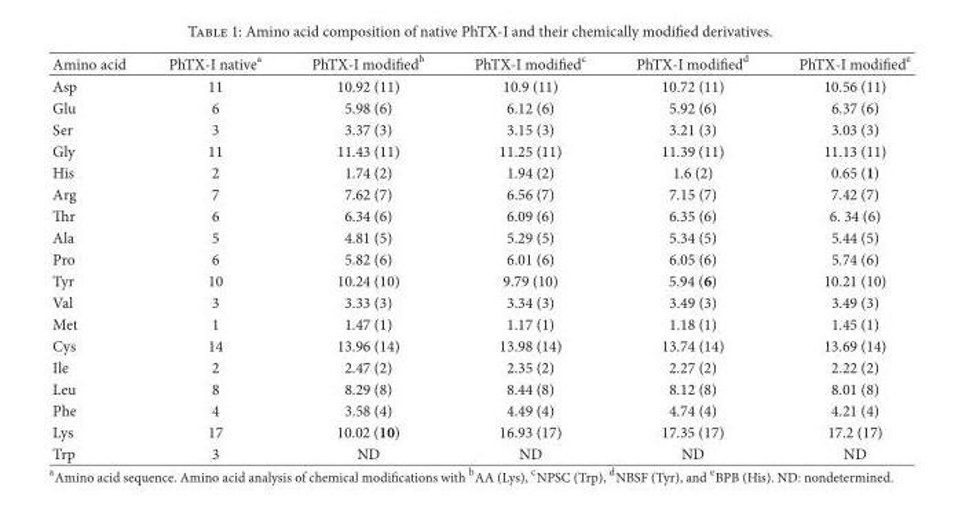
<table><thead><tr><td>Amino acid</td><td>PhTX-I native<sup>a</sup></td><td>PhTX-I modi�edb</td><td>PhTX-I modi�edc</td><td>PhTX-I modi�edd</td><td>PhTX-I modi�ede</td></tr></thead><tbody><tr><td>Asp</td><td>11</td><td>10.92 (11)</td><td>10.9 (11)</td><td>10.72 (11)</td><td>10.56 (11)</td></tr><tr><td>Glu</td><td>6</td><td>5.98 (6)</td><td>6.12 (6)</td><td>5.92 (6)</td><td>6.37 (6)</td></tr><tr><td>Ser</td><td>3</td><td>3.37 (3)</td><td>3.15 (3)</td><td>3.21 (3)</td><td>3.03 (3)</td></tr><tr><td>Gly</td><td>11</td><td>11.43 (11)</td><td>11.25 (11)</td><td>11.39 (11)</td><td>11.13 (11)</td></tr><tr><td>His</td><td>2</td><td>1.74 (2)</td><td>1.94 (2)</td><td>1.6 (2)</td><td>0.65 (1)</td></tr><tr><td>Arg</td><td>7</td><td>7.62 (7)</td><td>6.56 (7)</td><td>7.15 (7)</td><td>7.42 (7)</td></tr><tr><td>r</td><td>6</td><td>6.34 (6)</td><td>6.09 (6)</td><td>6.35 (6)</td><td>6. 34 (6)</td></tr><tr><td>Ala</td><td>5</td><td>4.81 (5)</td><td>5.29 (5)</td><td>5.34 (5)</td><td>5.44 (5)</td></tr><tr><td>Pro</td><td>6</td><td>5.82 (6)</td><td>6.01 (6)</td><td>6.05 (6)</td><td>5.74 (6)</td></tr><tr><td>Tyr</td><td>10</td><td>10.24 (10)</td><td>9.79 (10)</td><td>5.94 (6)</td><td>10.21 (10)</td></tr><tr><td>Val</td><td>3</td><td>3.33 (3)</td><td>3.34 (3)</td><td>3.49 (3)</td><td>3.49 (3)</td></tr><tr><td>Met</td><td>1</td><td>1.47 (1)</td><td>1.17 (1)</td><td>1.18 (1)</td><td>1.45 (1)</td></tr><tr><td>Cys</td><td>14</td><td>13.96 (14)</td><td>13.98 (14)</td><td>13.74 (14)</td><td>13.69 (14)</td></tr><tr><td>Ile</td><td>2</td><td>2.47 (2)</td><td>2.35 (2)</td><td>2.27 (2)</td><td>2.22 (2)</td></tr><tr><td>Leu</td><td>8</td><td>8.29 (8)</td><td>8.44 (8)</td><td>8.12 (8)</td><td>8.01 (8)</td></tr><tr><td>Phe</td><td>4</td><td>3.58 (4)</td><td>4.49 (4)</td><td>4.74 (4)</td><td>4.21 (4)</td></tr><tr><td>Lys</td><td>17</td><td>10.02 (10)</td><td>16.93 (17)</td><td>17.35 (17)</td><td>17.2 (17)</td></tr><tr><td>Trp</td><td>3</td><td>ND</td><td>ND</td><td>ND</td><td>ND</td></tr></tbody></table>